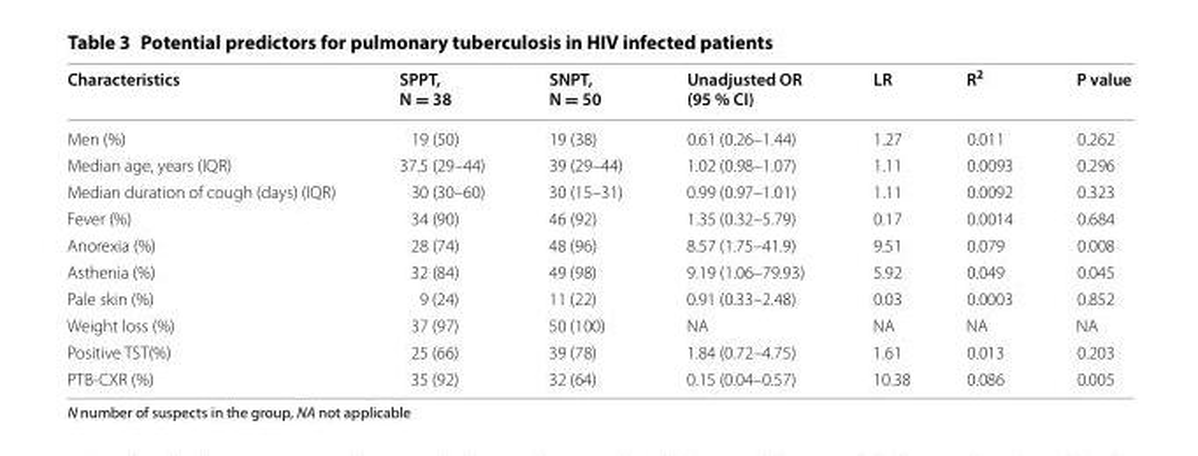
<table><thead><tr><td>Characteristics</td><td>SPPT, N = 38</td><td>SNPT, N = 50</td><td>Unadjusted OR (95 % CI)</td><td>LR</td><td>R<sup>2</sup></td><td>P value</td></tr></thead><tbody><tr><td>Men (%)</td><td>19 (50)</td><td>19 (38)</td><td>0.61 (0.26–1.44)</td><td>1.27</td><td>0.011</td><td>0.262</td></tr><tr><td>Median age, years (IQR)</td><td>37.5 (29–44)</td><td>39 (29–44)</td><td>1.02 (0.98–1.07)</td><td>1.11</td><td>0.0093</td><td>0.296</td></tr><tr><td>Median duration of cough (days) (IQR)</td><td>30 (30–60)</td><td>30 (15–31)</td><td>0.99 (0.97–1.01)</td><td>1.11</td><td>0.0092</td><td>0.323</td></tr><tr><td>Fever (%)</td><td>34 (90)</td><td>46 (92)</td><td>1.35 (0.32–5.79)</td><td>0.17</td><td>0.0014</td><td>0.684</td></tr><tr><td>Anorexia (%)</td><td>28 (74)</td><td>48 (96)</td><td>8.57 (1.75–41.9)</td><td>9.51</td><td>0.079</td><td>0.008</td></tr><tr><td>Asthenia (%)</td><td>32 (84)</td><td>49 (98)</td><td>9.19 (1.06–79.93)</td><td>5.92</td><td>0.049</td><td>0.045</td></tr><tr><td>Pale skin (%)</td><td>9 (24)</td><td>11 (22)</td><td>0.91 (0.33–2.48)</td><td>0.03</td><td>0.0003</td><td>0.852</td></tr><tr><td>Weight loss (%)</td><td>37 (97)</td><td>50 (100)</td><td>NA</td><td>NA</td><td>NA</td><td>NA</td></tr><tr><td>Positive TST(%)</td><td>25 (66)</td><td>39 (78)</td><td>1.84 (0.72–4.75)</td><td>1.61</td><td>0.013</td><td>0.203</td></tr><tr><td>PTB-CXR (%)</td><td>35 (92)</td><td>32 (64)</td><td>0.15 (0.04–0.57)</td><td>10.38</td><td>0.086</td><td>0.005</td></tr></tbody></table>